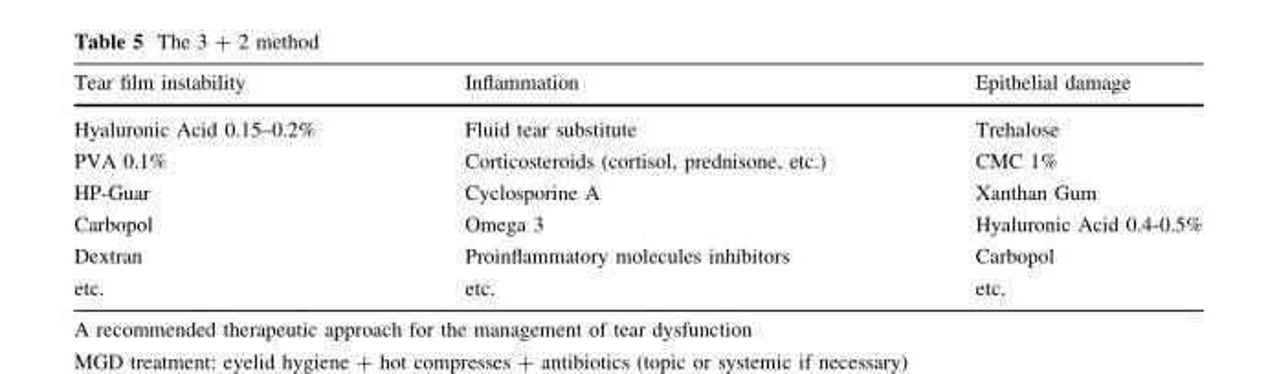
<table><thead><tr><td>Tear film instability</td><td>Inflammation</td><td>Epithelial damage</td></tr></thead><tbody><tr><td>Hyaluronic Acid 0.15–0.2%</td><td>Fluid tear substitute</td><td>Trehalose</td></tr><tr><td>PVA 0.1%</td><td>Corticosteroids (cortisol, prednisone, etc.)</td><td>CMC 1%</td></tr><tr><td>HP-Guar</td><td>Cyclosporine A</td><td>Xanthan Gum</td></tr><tr><td>Carbopol</td><td>Omega 3</td><td>Hyaluronic Acid 0.4-0.5%</td></tr><tr><td>Dextran</td><td>Proinflammatory molecules inhibitors</td><td>Carbopol</td></tr><tr><td>etc.</td><td>etc.</td><td>etc.</td></tr></tbody></table>